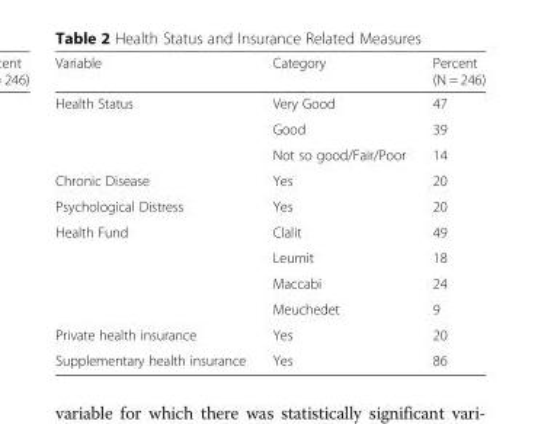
<table><thead><tr><td>Variable</td><td>Category</td><td>Percent (N = 246)</td></tr></thead><tbody><tr><td rowspan="3">Health Status</td><td>Very Good</td><td>47</td></tr><tr><td>Good</td><td>39</td></tr><tr><td>Not so good/Fair/Poor</td><td>14</td></tr><tr><td>Chronic Disease</td><td>Yes</td><td>20</td></tr><tr><td>Psychological Distress</td><td>Yes</td><td>20</td></tr><tr><td rowspan="4">Health Fund</td><td>Clalit</td><td>49</td></tr><tr><td>Leumit</td><td>18</td></tr><tr><td>Maccabi</td><td>24</td></tr><tr><td>Meuchedet</td><td>9</td></tr><tr><td>Private health insurance</td><td>Yes</td><td>20</td></tr><tr><td>Supplementary health insurance</td><td>Yes</td><td>86</td></tr></tbody></table>